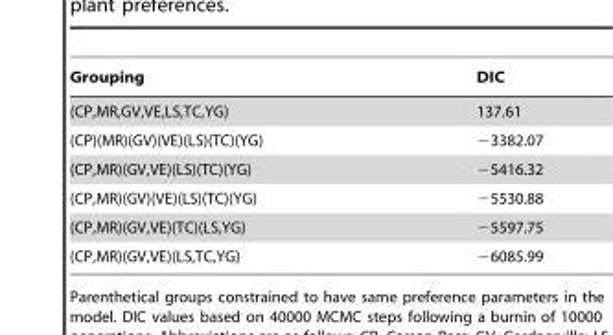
<table><thead><tr><td>Grouping</td><td>DIC</td></tr></thead><tbody><tr><td>(CP,MR,GV,VE,LS,TC,YG)</td><td>137.61</td></tr><tr><td>(CP)(MR)(GV)(VE)(LS)(TC)(YG)</td><td>−3382.07</td></tr><tr><td>(CP,MR)(GV,VE)(LS)(TC)(YG)</td><td>−5416.32</td></tr><tr><td>(CP,MR)(GV)(VE)(LS)(TC)(YG)</td><td>−5530.88</td></tr><tr><td>(CP,MR)(GV,VE)(TC)(LS,YG)</td><td>−5597.75</td></tr><tr><td>(CP,MR)(GV,VE)(LS,TC,YG)</td><td>−6085.99</td></tr></tbody></table>